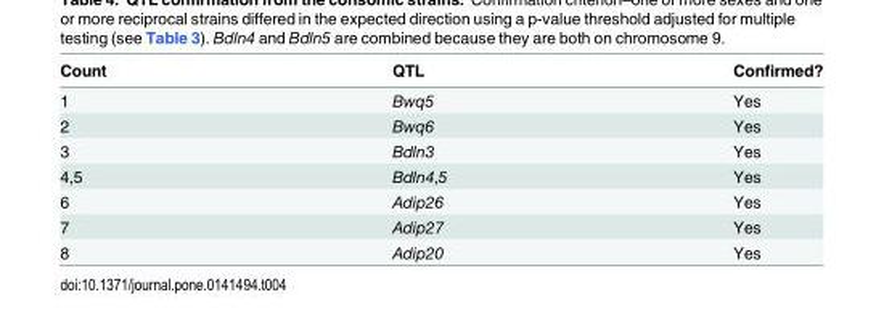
<table><thead><tr><td>Count</td><td>QTL</td><td>Confirmed?</td></tr></thead><tbody><tr><td>1</td><td>Bwq5</td><td>Yes</td></tr><tr><td>2</td><td>Bwq6</td><td>Yes</td></tr><tr><td>3</td><td>Bdln3</td><td>Yes</td></tr><tr><td>4,5</td><td>Bdln4,5</td><td>Yes</td></tr><tr><td>6</td><td>Adip26</td><td>Yes</td></tr><tr><td>7</td><td>Adip27</td><td>Yes</td></tr><tr><td>8</td><td>Adip20</td><td>Yes</td></tr></tbody></table>